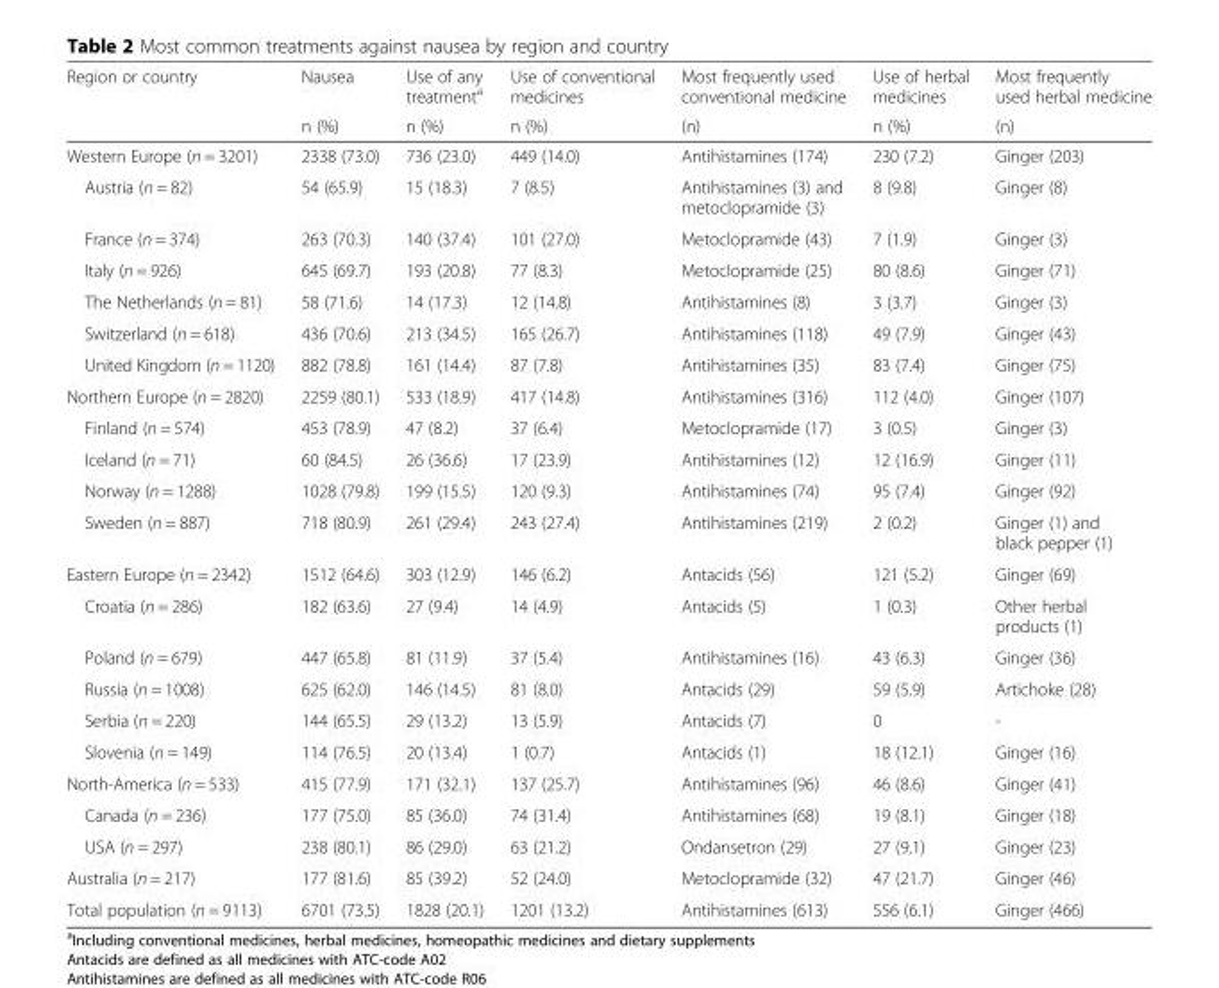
<table><thead><tr><td rowspan="2">Region or country</td><td rowspan="2">Nausea n (%)</td><td rowspan="2">Use of any treatment<sup>a</sup> n (%)</td><td rowspan="2">Use of conventional medicines n (%)</td><td rowspan="2">Most frequently used conventional medicine (n)</td><td rowspan="2">Use of herbal medicines n (%)</td><td rowspan="2">Most frequently used herbal medicine (n)</td></tr><tr></tr></thead><tbody><tr><td>Western Europe (n = 3201)</td><td>2338 (73.0)</td><td>736 (23.0)</td><td>449 (14.0)</td><td>Antihistamines (174)</td><td>230 (7.2)</td><td>Ginger (203)</td></tr><tr><td>Austria (n = 82)</td><td>54 (65.9)</td><td>15 (18.3)</td><td>7 (8.5)</td><td>Antihistamines (3) and metoclopramide (3)</td><td>8 (9.8)</td><td>Ginger (8)</td></tr><tr><td>France (n = 374)</td><td>263 (70.3)</td><td>140 (37.4)</td><td>101 (27.0)</td><td>Metoclopramide (43)</td><td>7 (1.9)</td><td>Ginger (3)</td></tr><tr><td>Italy (n = 926)</td><td>645 (69.7)</td><td>193 (20.8)</td><td>77 (8.3)</td><td>Metoclopramide (25)</td><td>80 (8.6)</td><td>Ginger (71)</td></tr><tr><td>The Netherlands (n = 81)</td><td>58 (71.6)</td><td>14 (17.3)</td><td>12 (14.8)</td><td>Antihistamines (8)</td><td>3 (3.7)</td><td>Ginger (3)</td></tr><tr><td>Switzerland (n = 618)</td><td>436 (70.6)</td><td>213 (34.5)</td><td>165 (26.7)</td><td>Antihistamines (118)</td><td>49 (7.9)</td><td>Ginger (43)</td></tr><tr><td>United Kingdom (n = 1120)</td><td>882 (78.8)</td><td>161 (14.4)</td><td>87 (7.8)</td><td>Antihistamines (35)</td><td>83 (7.4)</td><td>Ginger (75)</td></tr><tr><td>Northern Europe (n = 2820)</td><td>2259 (80.1)</td><td>533 (18.9)</td><td>417 (14.8)</td><td>Antihistamines (316)</td><td>112 (4.0)</td><td>Ginger (107)</td></tr><tr><td>Finland (n = 574)</td><td>453 (78.9)</td><td>47 (8.2)</td><td>37 (6.4)</td><td>Metoclopramide (17)</td><td>3 (0.5)</td><td>Ginger (3)</td></tr><tr><td>Iceland (n = 71)</td><td>60 (84.5)</td><td>26 (36.6)</td><td>17 (23.9)</td><td>Antihistamines (12)</td><td>12 (16.9)</td><td>Ginger (11)</td></tr><tr><td>Norway (n = 1288)</td><td>1028 (79.8)</td><td>199 (15.5)</td><td>120 (9.3)</td><td>Antihistamines (74)</td><td>95 (7.4)</td><td>Ginger (92)</td></tr><tr><td>Sweden (n = 887)</td><td>718 (80.9)</td><td>261 (29.4)</td><td>243 (27.4)</td><td>Antihistamines (219)</td><td>2 (0.2)</td><td>Ginger (1) and black pepper (1)</td></tr><tr><td>Eastern Europe (n = 2342)</td><td>1512 (64.6)</td><td>303 (12.9)</td><td>146 (6.2)</td><td>Antacids (56)</td><td>121 (5.2)</td><td>Ginger (69)</td></tr><tr><td>Croatia (n = 286)</td><td>182 (63.6)</td><td>27 (9.4)</td><td>14 (4.9)</td><td>Antacids (5)</td><td>1 (0.3)</td><td>Other herbal products (1)</td></tr><tr><td>Poland (n = 679)</td><td>447 (65.8)</td><td>81 (11.9)</td><td>37 (5.4)</td><td>Antihistamines (16)</td><td>43 (6.3)</td><td>Ginger (36)</td></tr><tr><td>Russia (n = 1008)</td><td>625 (62.0)</td><td>146 (14.5)</td><td>81 (8.0)</td><td>Antacids (29)</td><td>59 (5.9)</td><td>Artichoke (28)</td></tr><tr><td>Serbia (n = 220)</td><td>144 (65.5)</td><td>29 (13.2)</td><td>13 (5.9)</td><td>Antacids (7)</td><td>0</td><td>-</td></tr><tr><td>Slovenia (n = 149)</td><td>114 (76.5)</td><td>20 (13.4)</td><td>1 (0.7)</td><td>Antacids (1)</td><td>18 (12.1)</td><td>Ginger (16)</td></tr><tr><td>North-America (n = 533)</td><td>415 (77.9)</td><td>171 (32.1)</td><td>137 (25.7)</td><td>Antihistamines (96)</td><td>46 (8.6)</td><td>Ginger (41)</td></tr><tr><td>Canada (n = 236)</td><td>177 (75.0)</td><td>85 (36.0)</td><td>74 (31.4)</td><td>Antihistamines (68)</td><td>19 (8.1)</td><td>Ginger (18)</td></tr><tr><td>USA (n = 297)</td><td>238 (80.1)</td><td>86 (29.0)</td><td>63 (21.2)</td><td>Ondansetron (29)</td><td>27 (9.1)</td><td>Ginger (23)</td></tr><tr><td>Australia (n = 217)</td><td>177 (81.6)</td><td>85 (39.2)</td><td>52 (24.0)</td><td>Metoclopramide (32)</td><td>47 (21.7)</td><td>Ginger (46)</td></tr><tr><td>Total population (n = 9113)</td><td>6701 (73.5)</td><td>1828 (20.1)</td><td>1201 (13.2)</td><td>Antihistamines (613)</td><td>556 (6.1)</td><td>Ginger (466)</td></tr></tbody></table>